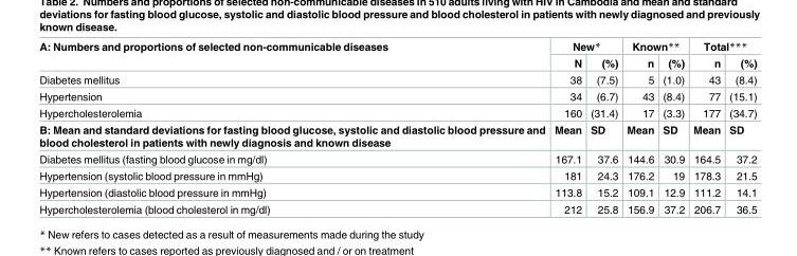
<table><tbody><tr><td rowspan="2">A: Numbers and proportions of selected non-communicable diseases</td><td colspan="2">New*</td><td colspan="2">Known**</td><td colspan="2">Total***</td></tr><tr><td>N</td><td>(%)</td><td>n</td><td>(%)</td><td>n</td><td>(%)</td></tr><tr><td>Diabetes mellitus</td><td>38</td><td>(7.5)</td><td>5</td><td>(1.0)</td><td>43</td><td>(8.4)</td></tr><tr><td>Hypertension</td><td>34</td><td>(6.7)</td><td>43</td><td>(8.4)</td><td>77</td><td>(15.1)</td></tr><tr><td>Hypercholesterolemia</td><td>160</td><td>(31.4)</td><td>17</td><td>(3.3)</td><td>177</td><td>(34.7)</td></tr><tr><td>B: Mean and standard deviations for fasting blood glucose, systolic and diastolic blood pressure and blood cholesterol in patients with newly diagnosis and known disease</td><td>Mean</td><td>SD</td><td>Mean</td><td>SD</td><td>Mean</td><td>SD</td></tr><tr><td>Diabetes mellitus (fasting blood glucose in mg/dl)</td><td>167.1</td><td>37.6</td><td>144.6</td><td>30.9</td><td>164.5</td><td>37.2</td></tr><tr><td>Hypertension (systolic blood pressure in mmHg)</td><td>181</td><td>24.3</td><td>176.2</td><td>19</td><td>178.3</td><td>21.5</td></tr><tr><td>Hypertension (diastolic blood pressure in mmHg)</td><td>113.8</td><td>15.2</td><td>109.1</td><td>12.9</td><td>111.2</td><td>14.1</td></tr><tr><td>Hypercholesterolemia (blood cholesterol in mg/dl)</td><td>212</td><td>25.8</td><td>156.9</td><td>37.2</td><td>206.7</td><td>36.5</td></tr></tbody></table>